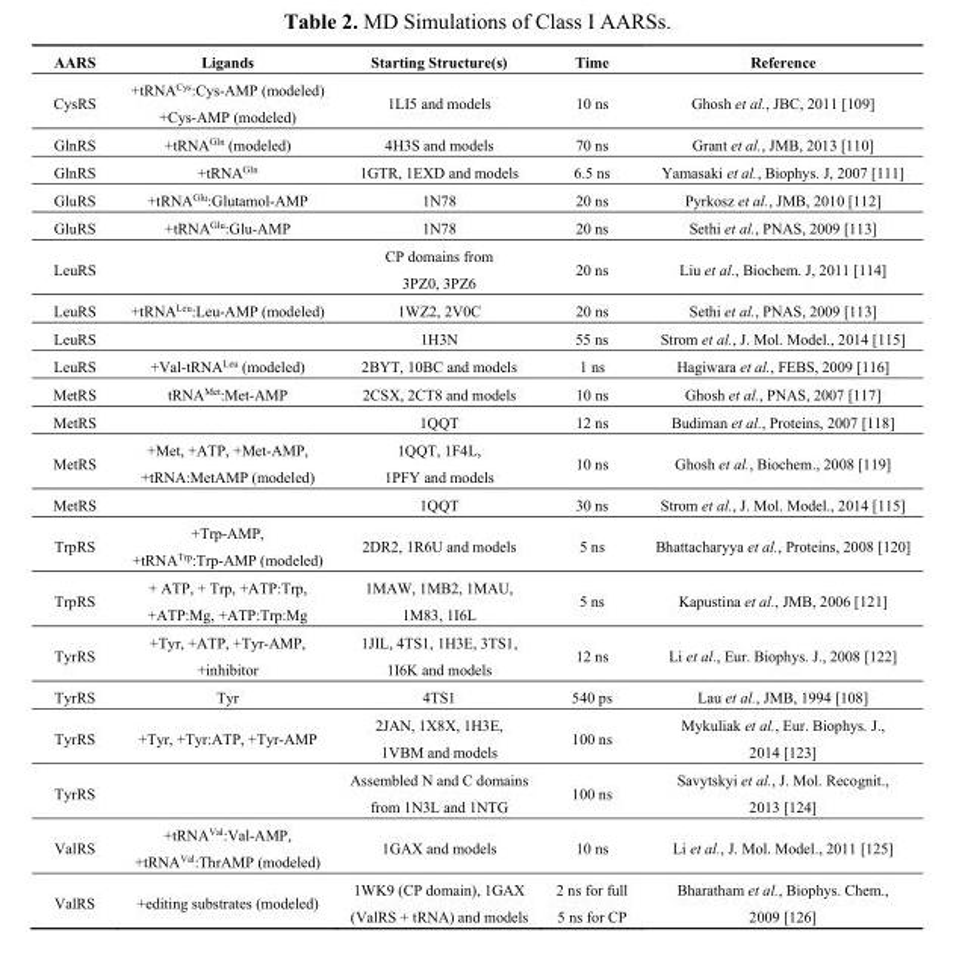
<table><thead><tr><td>AARS</td><td>Ligands</td><td>Starting Structure(s)</td><td>Time</td><td>Reference</td></tr></thead><tbody><tr><td>CysRS</td><td>+tRNA<sup>Cys</sup>:Cys-AMP (modeled) +Cys-AMP (modeled)</td><td>1LI5 and models</td><td>10 ns</td><td>Ghosh et al., JBC, 2011 [109]</td></tr><tr><td>GlnRS</td><td>+tRNA<sup>Gln</sup> (modeled)</td><td>4H3S and models</td><td>70 ns</td><td>Grant et al., JMB, 2013 [110]</td></tr><tr><td>GlnRS</td><td>+tRNA<sup>Gln</sup></td><td>1GTR, 1EXD and models</td><td>6.5 ns</td><td>Yamasaki et al., Biophys. J, 2007 [111]</td></tr><tr><td>GluRS</td><td>+tRNA<sup>Glu</sup>:Glutamol-AMP</td><td>1N78</td><td>20 ns</td><td>Pyrkosz et al., JMB, 2010 [112]</td></tr><tr><td>GluRS</td><td>+tRNA<sup>Glu</sup>:Glu-AMP</td><td>1N78</td><td>20 ns</td><td>Sethi et al., PNAS, 2009 [113]</td></tr><tr><td>LeuRS</td><td></td><td>CP domains from 3PZ0, 3PZ6</td><td>20 ns</td><td>Liu et al., Biochem. J, 2011 [114]</td></tr><tr><td>LeuRS</td><td>+tRNA<sup>Leu</sup>:Leu-AMP (modeled)</td><td>1WZ2, 2V0C</td><td>20 ns</td><td>Sethi et al., PNAS, 2009 [113]</td></tr><tr><td>LeuRS</td><td></td><td>1H3N</td><td>55 ns</td><td>Strom et al., J. Mol. Model., 2014 [115]</td></tr><tr><td>LeuRS</td><td>+Val-tRNA<sup>Leu</sup> (modeled)</td><td>2BYT, 10BC and models</td><td>1 ns</td><td>Hagiwara et al., FEBS, 2009 [116]</td></tr><tr><td>MetRS</td><td>tRNA<sup>Met</sup>:Met-AMP</td><td>2CSX, 2CT8 and models</td><td>10 ns</td><td>Ghosh et al., PNAS, 2007 [117]</td></tr><tr><td>MetRS</td><td></td><td>1QQT</td><td>12 ns</td><td>Budiman et al., Proteins, 2007 [118]</td></tr><tr><td>MetRS</td><td>+Met, +ATP, +Met-AMP, +tRNA:MetAMP (modeled)</td><td>1QQT, 1F4L, 1PFY and models</td><td>10 ns</td><td>Ghosh et al., Biochem., 2008 [119]</td></tr><tr><td>MetRS</td><td></td><td>1QQT</td><td>30 ns</td><td>Strom et al., J. Mol. Model., 2014 [115]</td></tr><tr><td>TrpRS</td><td>+Trp-AMP, +tRNA<sup>Trp</sup>:Trp-AMP (modeled)</td><td>2DR2, 1R6U and models</td><td>5 ns</td><td>Bhattacharyya et al., Proteins, 2008 [120]</td></tr><tr><td>TrpRS</td><td>+ ATP, + Trp, +ATP:Trp, +ATP:Mg, +ATP:Trp:Mg</td><td>1MAW, 1MB2, 1MAU, 1M83, 1I6L</td><td>5 ns</td><td>Kapustina et al., JMB, 2006 [121]</td></tr><tr><td>TyrRS</td><td>+Tyr, +ATP, +Tyr-AMP, +inhibitor</td><td>1JIL, 4TS1, 1H3E, 3TS1, 1I6K and models</td><td>12 ns</td><td>Li et al., Eur. Biophys. J., 2008 [122]</td></tr><tr><td>TyrRS</td><td>Tyr</td><td>4TS1</td><td>540 ps</td><td>Lau et al., JMB, 1994 [108]</td></tr><tr><td>TyrRS</td><td>+Tyr, +Tyr:ATP, +Tyr-AMP</td><td>2JAN, 1X8X, 1H3E, 1VBM and models</td><td>100 ns</td><td>Mykuliak et al., Eur. Biophys. J., 2014 [123]</td></tr><tr><td>TyrRS</td><td></td><td>Assembled N and C domains from 1N3L and 1NTG</td><td>100 ns</td><td>Savytskyi et al., J. Mol. Recognit., 2013 [124]</td></tr><tr><td>ValRS</td><td>+tRNA<sup>Val</sup>:Val-AMP, +tRNA<sup>Val</sup>:ThrAMP (modeled)</td><td>1GAX and models</td><td>10 ns</td><td>Li et al., J. Mol. Model., 2011 [125]</td></tr><tr><td>ValRS</td><td>+editing substrates (modeled)</td><td>1WK9 (CP domain), 1GAX (ValRS + tRNA) and models</td><td>2 ns for full 5 ns for CP</td><td>Bharatham et al., Biophys. Chem., 2009 [126]</td></tr></tbody></table>